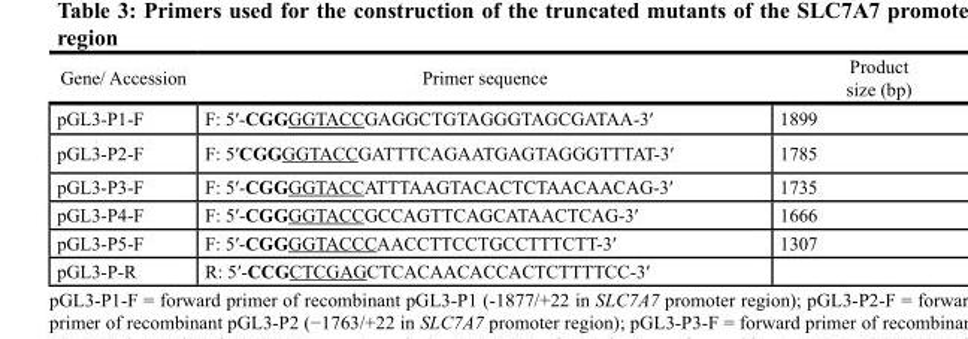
<table><thead><tr><td>Gene/ Accession</td><td>Primer sequence</td><td>Product size (bp)</td></tr></thead><tbody><tr><td>pGL3-P1-F</td><td>F: 5′-CGGGGTACCGAGGCTGTAGGGTAGCGATAA-3′</td><td>1899</td></tr><tr><td>pGL3-P2-F</td><td>F: 5′CGGGGTACCGATTTCAGAATGAGTAGGGTTTAT-3′</td><td>1785</td></tr><tr><td>pGL3-P3-F</td><td>F: 5′-CGGGGTACCATTTAAGTACACTCTAACAACAG-3′</td><td>1735</td></tr><tr><td>pGL3-P4-F</td><td>F: 5′-CGGGGTACCGCCAGTTCAGCATAACTCAG-3′</td><td>1666</td></tr><tr><td>pGL3-P5-F</td><td>F: 5′-CGGGGTACCCAACCTTCCTGCCTTTCTT-3′</td><td>1307</td></tr><tr><td>pGL3-P-R</td><td>R: 5′-CCGCTCGAGCTCACAACACCACTCTTTTCC-3′</td><td></td></tr></tbody></table>